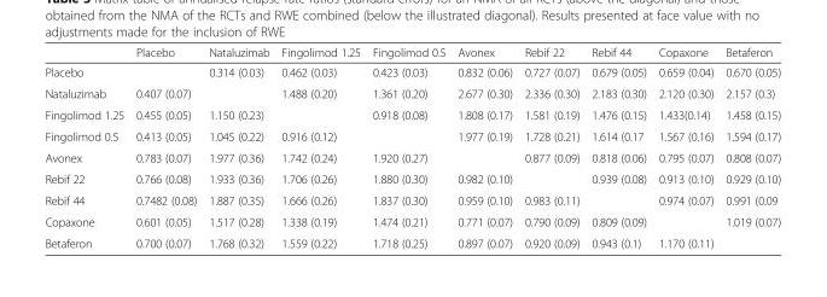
<table><thead><tr><td></td><td>Placebo</td><td>Nataluzimab</td><td>Fingolimod 1.25</td><td>Fingolimod 0.5</td><td>Avonex</td><td>Rebif 22</td><td>Rebif 44</td><td>Copaxone</td><td>Betaferon</td></tr></thead><tbody><tr><td>Placebo</td><td></td><td>0.314 (0.03)</td><td>0.462 (0.03)</td><td>0.423 (0.03)</td><td>0.832 (0.06)</td><td>0.727 (0.07)</td><td>0.679 (0.05)</td><td>0.659 (0.04)</td><td>0.670 (0.05)</td></tr><tr><td>Nataluzimab</td><td>0.407 (0.07)</td><td></td><td>1.488 (0.20)</td><td>1.361 (0.20)</td><td>2.677 (0.30)</td><td>2.336 (0.30)</td><td>2.183 (0.30)</td><td>2.120 (0.30)</td><td>2.157 (0.3)</td></tr><tr><td>Fingolimod 1.25</td><td>0.455 (0.05)</td><td>1.150 (0.23)</td><td></td><td>0.918 (0.08)</td><td>1.808 (0.17)</td><td>1.581 (0.19)</td><td>1.476 (0.15)</td><td>1.433(0.14)</td><td>1.458 (0.15)</td></tr><tr><td>Fingolimod 0.5</td><td>0.413 (0.05)</td><td>1.045 (0.22)</td><td>0.916 (0.12)</td><td></td><td>1.977 (0.19)</td><td>1.728 (0.21)</td><td>1.614 (0.17</td><td>1.567 (0.16)</td><td>1.594 (0.17)</td></tr><tr><td>Avonex</td><td>0.783 (0.07)</td><td>1.977 (0.36)</td><td>1.742 (0.24)</td><td>1.920 (0.27)</td><td></td><td>0.877 (0.09)</td><td>0.818 (0.06)</td><td>0.795 (0.07)</td><td>0.808 (0.07)</td></tr><tr><td>Rebif 22</td><td>0.766 (0.08)</td><td>1.933 (0.36)</td><td>1.706 (0.26)</td><td>1.880 (0.30)</td><td>0.982 (0.10)</td><td></td><td>0.939 (0.08)</td><td>0.913 (0.10)</td><td>0.929 (0.10)</td></tr><tr><td>Rebif 44</td><td>0.7482 (0.08)</td><td>1.887 (0.35)</td><td>1.666 (0.26)</td><td>1.837 (0.30)</td><td>0.959 (0.10)</td><td>0.983 (0.11)</td><td></td><td>0.974 (0.07)</td><td>0.991 (0.09</td></tr><tr><td>Copaxone</td><td>0.601 (0.05)</td><td>1.517 (0.28)</td><td>1.338 (0.19)</td><td>1.474 (0.21)</td><td>0.771 (0.07)</td><td>0.790 (0.09)</td><td>0.809 (0.09)</td><td></td><td>1.019 (0.07)</td></tr><tr><td>Betaferon</td><td>0.700 (0.07)</td><td>1.768 (0.32)</td><td>1.559 (0.22)</td><td>1.718 (0.25)</td><td>0.897 (0.07)</td><td>0.920 (0.09)</td><td>0.943 (0.1)</td><td>1.170 (0.11)</td><td></td></tr></tbody></table>